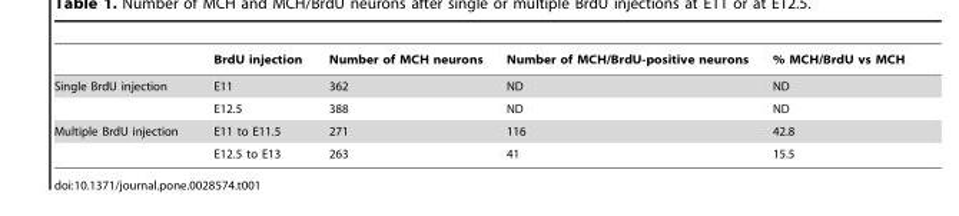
<table><thead><tr><td></td><td>BrdU injection</td><td>Number of MCH neurons</td><td>Number of MCH/BrdU-positive neurons</td><td>% MCH/BrdU vs MCH</td></tr></thead><tbody><tr><td rowspan="2">Single BrdU injection</td><td>E11</td><td>362</td><td>ND</td><td>ND</td></tr><tr><td>E12.5</td><td>388</td><td>ND</td><td>ND</td></tr><tr><td rowspan="2">Multiple BrdU injection</td><td>E11 to E11.5</td><td>271</td><td>116</td><td>42.8</td></tr><tr><td>E12.5 to E13</td><td>263</td><td>41</td><td>15.5</td></tr></tbody></table>